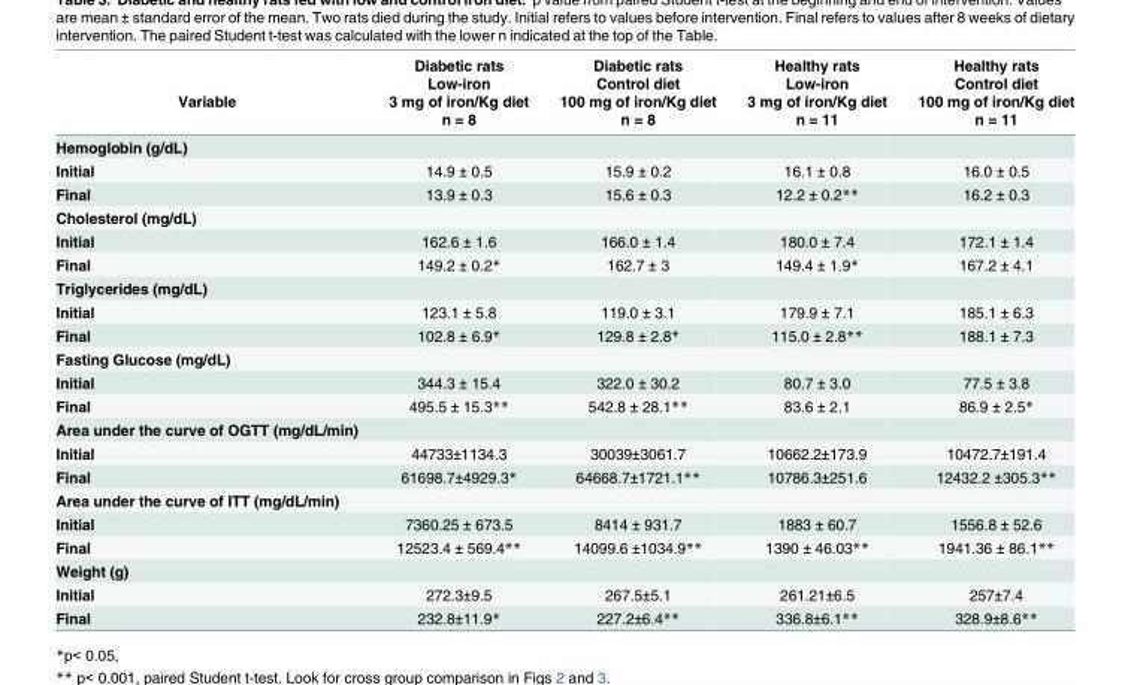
<table><thead><tr><td rowspan="4">Variable</td><td rowspan="4">Diabetic rats Low-iron 3 mg of iron/Kg diet n = 8</td><td rowspan="4">Diabetic rats Control diet 100 mg of iron/Kg diet n = 8</td><td rowspan="4">Healthy rats Low-iron 3 mg of iron/Kg diet n = 11</td><td rowspan="4">Healthy rats Control diet 100 mg of iron/Kg diet n = 11</td></tr><tr></tr><tr></tr><tr></tr></thead><tbody><tr><td colspan="5">Hemoglobin (g/dL)</td></tr><tr><td>Initial</td><td>14.9 ± 0.5</td><td>15.9 ± 0.2</td><td>16.1 ± 0.8</td><td>16.0 ± 0.5</td></tr><tr><td>Final</td><td>13.9 ± 0.3</td><td>15.6 ± 0.3</td><td>12.2 ± 0.2**</td><td>16.2 ± 0.3</td></tr><tr><td colspan="5">Cholesterol (mg/dL)</td></tr><tr><td>Initial</td><td>162.6 ± 1.6</td><td>166.0 ± 1.4</td><td>180.0 ± 7.4</td><td>172.1 ± 1.4</td></tr><tr><td>Final</td><td>149.2 ± 0.2*</td><td>162.7 ± 3</td><td>149.4 ± 1.9*</td><td>167.2 ± 4.1</td></tr><tr><td colspan="5">Triglycerides (mg/dL)</td></tr><tr><td>Initial</td><td>123.1 ± 5.8</td><td>119.0 ± 3.1</td><td>179.9 ± 7.1</td><td>185.1 ± 6.3</td></tr><tr><td>Final</td><td>102.8 ± 6.9*</td><td>129.8 ± 2.8*</td><td>115.0 ± 2.8**</td><td>188.1 ± 7.3</td></tr><tr><td colspan="5">Fasting Glucose (mg/dL)</td></tr><tr><td>Initial</td><td>344.3 ± 15.4</td><td>322.0 ± 30.2</td><td>80.7 ± 3.0</td><td>77.5 ± 3.8</td></tr><tr><td>Final</td><td>495.5 ± 15.3**</td><td>542.8 ± 28.1**</td><td>83.6 ± 2.1</td><td>86.9 ± 2.5*</td></tr><tr><td colspan="5">Area under the curve of OGTT (mg/dL/min)</td></tr><tr><td>Initial</td><td>44733±1134.3</td><td>30039±3061.7</td><td>10662.2±173.9</td><td>10472.7±191.4</td></tr><tr><td>Final</td><td>61698.7±4929.3*</td><td>64668.7±1721.1**</td><td>10786.3±251.6</td><td>12432.2 ±305.3**</td></tr><tr><td colspan="5">Area under the curve of ITT (mg/dL/min)</td></tr><tr><td>Initial</td><td>7360.25 ± 673.5</td><td>8414 ± 931.7</td><td>1883 ± 60.7</td><td>1556.8 ± 52.6</td></tr><tr><td>Final</td><td>12523.4 ± 569.4**</td><td>14099.6 ±1034.9**</td><td>1390 ± 46.03**</td><td>1941.36 ± 86.1**</td></tr><tr><td colspan="5">Weight (g)</td></tr><tr><td>Initial</td><td>272.3±9.5</td><td>267.5±5.1</td><td>261.21±6.5</td><td>257±7.4</td></tr><tr><td>Final</td><td>232.8±11.9*</td><td>227.2±6.4**</td><td>336.8±6.1**</td><td>328.9±8.6**</td></tr></tbody></table>